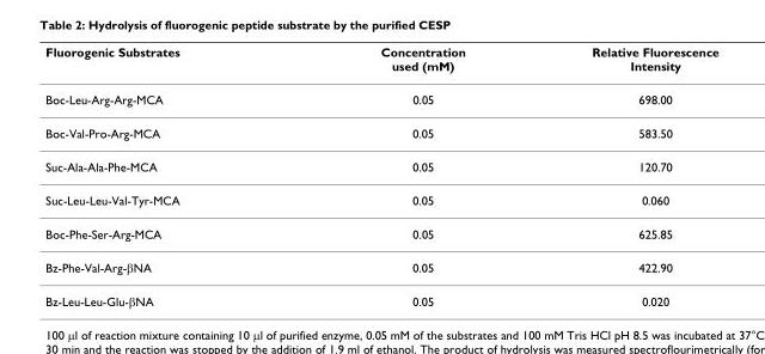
<table><thead><tr><td>Fluorogenic Substrates</td><td>Concentration used (mM)</td><td>Relative Fluorescence Intensity</td></tr></thead><tbody><tr><td>Boc-Leu-Arg-Arg-MCA</td><td>0.05</td><td>698.00</td></tr><tr><td>Boc-Val-Pro-Arg-MCA</td><td>0.05</td><td>583.50</td></tr><tr><td>Suc-Ala-Ala-Phe-MCA</td><td>0.05</td><td>120.70</td></tr><tr><td>Suc-Leu-Leu-Val-Tyr-MCA</td><td>0.05</td><td>0.060</td></tr><tr><td>Boc-Phe-Ser-Arg-MCA</td><td>0.05</td><td>625.85</td></tr><tr><td>Bz-Phe-Val-Arg-βNA</td><td>0.05</td><td>422.90</td></tr><tr><td>Bz-Leu-Leu-Glu-βNA</td><td>0.05</td><td>0.020</td></tr></tbody></table>